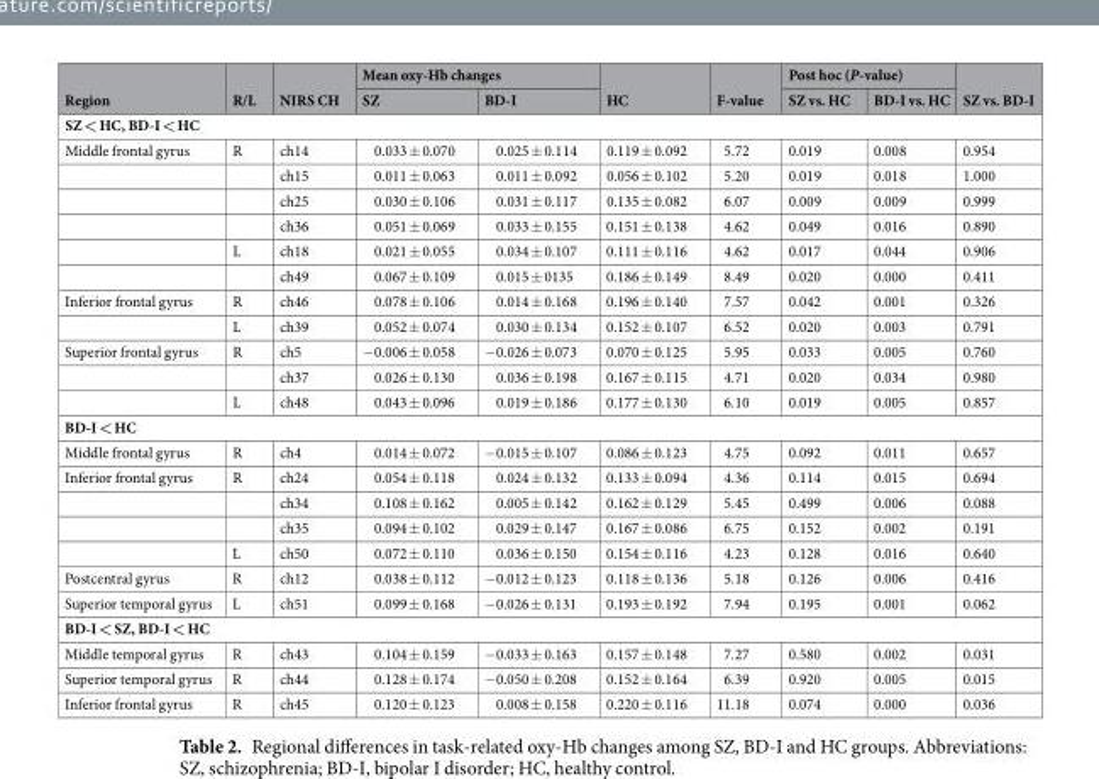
<table><thead><tr><td rowspan="2">Region</td><td rowspan="2">R/L</td><td rowspan="2">NIRS CH</td><td colspan="2">Mean oxy-Hb changes</td><td rowspan="2">HC</td><td rowspan="2">F-value</td><td colspan="2">Post hoc (P-value)</td><td rowspan="2">SZ vs. BD-I</td></tr><tr><td>SZ</td><td>BD-I</td><td>SZ vs. HC</td><td>BD-I vs. HC</td></tr></thead><tbody><tr><td colspan="10">SZ &lt; HC, BD-I &lt; HC</td></tr><tr><td rowspan="6">Middle frontal gyrus</td><td>R</td><td>ch14</td><td>0.033 ± 0.070</td><td>0.025 ± 0.114</td><td>0.119 ± 0.092</td><td>5.72</td><td>0.019</td><td>0.008</td><td>0.954</td></tr><tr><td></td><td>ch15</td><td>0.011 ± 0.063</td><td>0.011 ± 0.092</td><td>0.056 ± 0.102</td><td>5.20</td><td>0.019</td><td>0.018</td><td>1.000</td></tr><tr><td></td><td>ch25</td><td>0.030 ± 0.106</td><td>0.031 ± 0.117</td><td>0.135 ± 0.082</td><td>6.07</td><td>0.009</td><td>0.009</td><td>0.999</td></tr><tr><td></td><td>ch36</td><td>0.051 ± 0.069</td><td>0.033 ± 0.155</td><td>0.151 ± 0.138</td><td>4.62</td><td>0.049</td><td>0.016</td><td>0.890</td></tr><tr><td>L</td><td>ch18</td><td>0.021 ± 0.055</td><td>0.034 ± 0.107</td><td>0.111 ± 0.116</td><td>4.62</td><td>0.017</td><td>0.044</td><td>0.906</td></tr><tr><td></td><td>ch49</td><td>0.067 ± 0.109</td><td>0.015 ± 0135</td><td>0.186 ± 0.149</td><td>8.49</td><td>0.020</td><td>0.000</td><td>0.411</td></tr><tr><td rowspan="2">Inferior frontal gyrus</td><td>R</td><td>ch46</td><td>0.078 ± 0.106</td><td>0.014 ± 0.168</td><td>0.196 ± 0.140</td><td>7.57</td><td>0.042</td><td>0.001</td><td>0.326</td></tr><tr><td>L</td><td>ch39</td><td>0.052 ± 0.074</td><td>0.030 ± 0.134</td><td>0.152 ± 0.107</td><td>6.52</td><td>0.020</td><td>0.003</td><td>0.791</td></tr><tr><td rowspan="3">Superior frontal gyrus</td><td>R</td><td>ch5</td><td>−0.006 ± 0.058</td><td>−0.026 ± 0.073</td><td>0.070 ± 0.125</td><td>5.95</td><td>0.033</td><td>0.005</td><td>0.760</td></tr><tr><td></td><td>ch37</td><td>0.026 ± 0.130</td><td>0.036 ± 0.198</td><td>0.167 ± 0.115</td><td>4.71</td><td>0.020</td><td>0.034</td><td>0.980</td></tr><tr><td>L</td><td>ch48</td><td>0.043 ± 0.096</td><td>0.019 ± 0.186</td><td>0.177 ± 0.130</td><td>6.10</td><td>0.019</td><td>0.005</td><td>0.857</td></tr><tr><td colspan="10">BD-I &lt; HC</td></tr><tr><td>Middle frontal gyrus</td><td>R</td><td>ch4</td><td>0.014 ± 0.072</td><td>−0.015 ± 0.107</td><td>0.086 ± 0.123</td><td>4.75</td><td>0.092</td><td>0.011</td><td>0.657</td></tr><tr><td rowspan="4">Inferior frontal gyrus</td><td>R</td><td>ch24</td><td>0.054 ± 0.118</td><td>0.024 ± 0.132</td><td>0.133 ± 0.094</td><td>4.36</td><td>0.114</td><td>0.015</td><td>0.694</td></tr><tr><td></td><td>ch34</td><td>0.108 ± 0.162</td><td>0.005 ± 0.142</td><td>0.162 ± 0.129</td><td>5.45</td><td>0.499</td><td>0.006</td><td>0.088</td></tr><tr><td></td><td>ch35</td><td>0.094 ± 0.102</td><td>0.029 ± 0.147</td><td>0.167 ± 0.086</td><td>6.75</td><td>0.152</td><td>0.002</td><td>0.191</td></tr><tr><td>L</td><td>ch50</td><td>0.072 ± 0.110</td><td>0.036 ± 0.150</td><td>0.154 ± 0.116</td><td>4.23</td><td>0.128</td><td>0.016</td><td>0.640</td></tr><tr><td>Postcentral gyrus</td><td>R</td><td>ch12</td><td>0.038 ± 0.112</td><td>−0.012 ± 0.123</td><td>0.118 ± 0.136</td><td>5.18</td><td>0.126</td><td>0.006</td><td>0.416</td></tr><tr><td>Superior temporal gyrus</td><td>L</td><td>ch51</td><td>0.099 ± 0.168</td><td>−0.026 ± 0.131</td><td>0.193 ± 0.192</td><td>7.94</td><td>0.195</td><td>0.001</td><td>0.062</td></tr><tr><td colspan="10">BD-I &lt; SZ, BD-I &lt; HC</td></tr><tr><td>Middle temporal gyrus</td><td>R</td><td>ch43</td><td>0.104 ± 0.159</td><td>−0.033 ± 0.163</td><td>0.157 ± 0.148</td><td>7.27</td><td>0.580</td><td>0.002</td><td>0.031</td></tr><tr><td>Superior temporal gyrus</td><td>R</td><td>ch44</td><td>0.128 ± 0.174</td><td>−0.050 ± 0.208</td><td>0.152 ± 0.164</td><td>6.39</td><td>0.920</td><td>0.005</td><td>0.015</td></tr><tr><td>Inferior frontal gyrus</td><td>R</td><td>ch45</td><td>0.120 ± 0.123</td><td>0.008 ± 0.158</td><td>0.220 ± 0.116</td><td>11.18</td><td>0.074</td><td>0.000</td><td>0.036</td></tr></tbody></table>